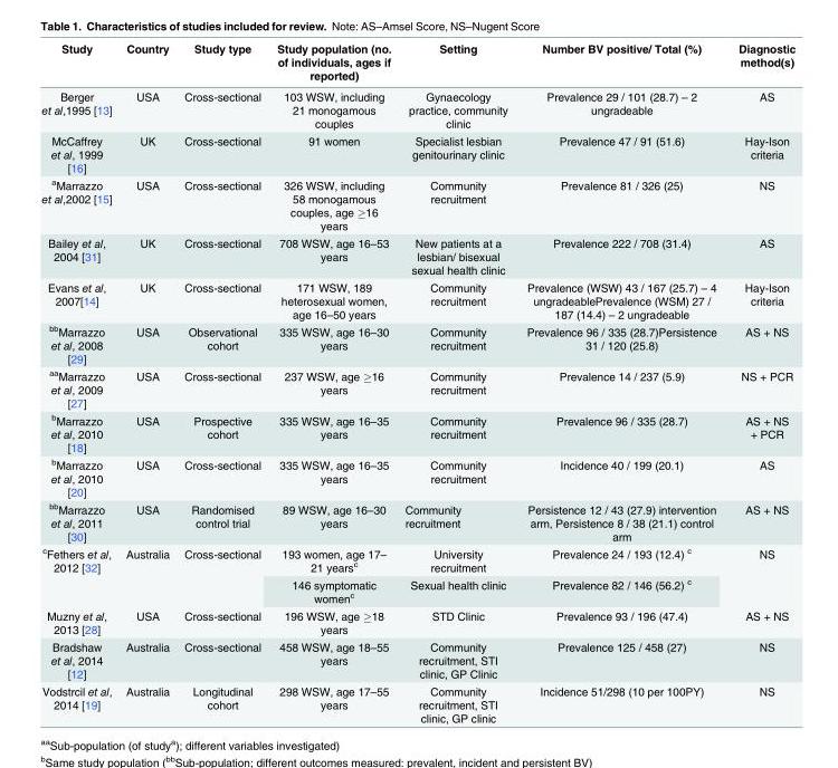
<table><thead><tr><td>Study</td><td>Country</td><td>Study type</td><td>Study population (no. of individuals, ages if reported)</td><td>Setting</td><td>Number BV positive/ Total (%)</td><td>Diagnostic method(s)</td></tr></thead><tbody><tr><td>Berger et al,1995 [13]</td><td>USA</td><td>Cross-sectional</td><td>103 WSW, including 21 monogamous couples</td><td>Gynaecology practice, community clinic</td><td>Prevalence 29 / 101 (28.7) – 2 ungradeable</td><td>AS</td></tr><tr><td>McCaffrey et al, 1999 [16]</td><td>UK</td><td>Cross-sectional</td><td>91 women</td><td>Specialist lesbian genitourinary clinic</td><td>Prevalence 47 / 91 (51.6)</td><td>Hay-Ison criteria</td></tr><tr><td><sup>a</sup>Marrazzo et al,2002 [15]</td><td>USA</td><td>Cross-sectional</td><td>326 WSW, including 58 monogamous couples, age ≥16 years</td><td>Community recruitment</td><td>Prevalence 81 / 326 (25)</td><td>NS</td></tr><tr><td>Bailey et al, 2004 [31]</td><td>UK</td><td>Cross-sectional</td><td>708 WSW, age 16–53 years</td><td>New patients at a lesbian/ bisexual sexual health clinic</td><td>Prevalence 222 / 708 (31.4)</td><td>AS</td></tr><tr><td>Evans et al, 2007[14]</td><td>UK</td><td>Cross-sectional</td><td>171 WSW, 189 heterosexual women, age 16–50 years</td><td>Community recruitment</td><td>Prevalence (WSW) 43 / 167 (25.7) – 4 ungradeablePrevalence (WSM) 27 / 187 (14.4) – 2 ungradeable</td><td>Hay-Ison criteria</td></tr><tr><td><sup>bb</sup>Marrazzo et al, 2008 [29]</td><td>USA</td><td>Observational cohort</td><td>335 WSW, age 16–30 years</td><td>Community recruitment</td><td>Prevalence 96 / 335 (28.7)Persistence 31 / 120 (25.8)</td><td>AS + NS</td></tr><tr><td><sup>aa</sup>Marrazzo et al, 2009 [27]</td><td>USA</td><td>Cross-sectional</td><td>237 WSW, age ≥16 years</td><td>Community recruitment</td><td>Prevalence 14 / 237 (5.9)</td><td>NS + PCR</td></tr><tr><td><sup>b</sup>Marrazzo et al, 2010 [18]</td><td>USA</td><td>Prospective cohort</td><td>335 WSW, age 16–35 years</td><td>Community recruitment</td><td>Prevalence 96 / 335 (28.7)</td><td>AS + NS + PCR</td></tr><tr><td><sup>b</sup>Marrazzo et al, 2010 [20]</td><td>USA</td><td>Cross-sectional</td><td>335 WSW, age 16–35 years</td><td>Community recruitment</td><td>Incidence 40 / 199 (20.1)</td><td>AS</td></tr><tr><td><sup>bb</sup>Marrazzo et al, 2011 [30]</td><td>USA</td><td>Randomised control trial</td><td>89 WSW, age 16–30 years</td><td>Community recruitment</td><td>Persistence 12 / 43 (27.9) intervention arm, Persistence 8 / 38 (21.1) control arm</td><td>AS + NS</td></tr><tr><td rowspan="2"><sup>c</sup>Fethers et al, 2012 [32]</td><td rowspan="2">Australia</td><td rowspan="2">Cross-sectional</td><td>193 women, age 17– 21 years<sup>c</sup></td><td>University recruitment</td><td>Prevalence 24 / 193 (12.4) <sup>c</sup></td><td rowspan="2">NS</td></tr><tr><td>146 symptomatic women<sup>c</sup></td><td>Sexual health clinic</td><td>Prevalence 82 / 146 (56.2) <sup>c</sup></td></tr><tr><td>Muzny et al, 2013 [28]</td><td>USA</td><td>Cross-sectional</td><td>196 WSW, age ≥18 years</td><td>STD Clinic</td><td>Prevalence 93 / 196 (47.4)</td><td>AS + NS</td></tr><tr><td>Bradshaw et al, 2014 [12]</td><td>Australia</td><td>Cross-sectional</td><td>458 WSW, age 18–55 years</td><td>Community recruitment, STI clinic, GP Clinic</td><td>Prevalence 125 / 458 (27)</td><td>NS</td></tr><tr><td>Vodstrcil et al, 2014 [19]</td><td>Australia</td><td>Longitudinal cohort</td><td>298 WSW, age 17–55 years</td><td>Community recruitment, STI clinic, GP clinic</td><td>Incidence 51/298 (10 per 100PY)</td><td>NS</td></tr></tbody></table>